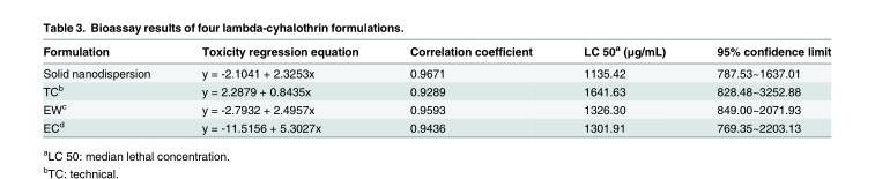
<table><thead><tr><td>Formulation</td><td>Toxicity regression equation</td><td>Correlation coefficient</td><td>LC 50<sup>a</sup> (μg/mL)</td><td>95% confidence limit</td></tr></thead><tbody><tr><td>Solid nanodispersion</td><td>y = -2.1041 + 2.3253x</td><td>0.9671</td><td>1135.42</td><td>787.53~1637.01</td></tr><tr><td>TC<sup>b</sup></td><td>y = 2.2879 + 0.8435x</td><td>0.9289</td><td>1641.63</td><td>828.48~3252.88</td></tr><tr><td>EW<sup>c</sup></td><td>y = -2.7932 + 2.4957x</td><td>0.9593</td><td>1326.30</td><td>849.00~2071.93</td></tr><tr><td>EC<sup>d</sup></td><td>y = -11.5156 + 5.3027x</td><td>0.9436</td><td>1301.91</td><td>769.35~2203.13</td></tr></tbody></table>